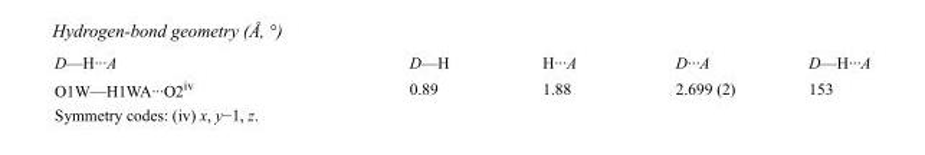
<table><tbody><tr><td>D—H···A</td><td>D—H</td><td>H···A</td><td>D···A</td><td>D—H···A</td></tr><tr><td>O1W—H1WA···O2<sup>iv</sup></td><td>0.89</td><td>1.88</td><td>2.699 (2)</td><td>153</td></tr></tbody></table>